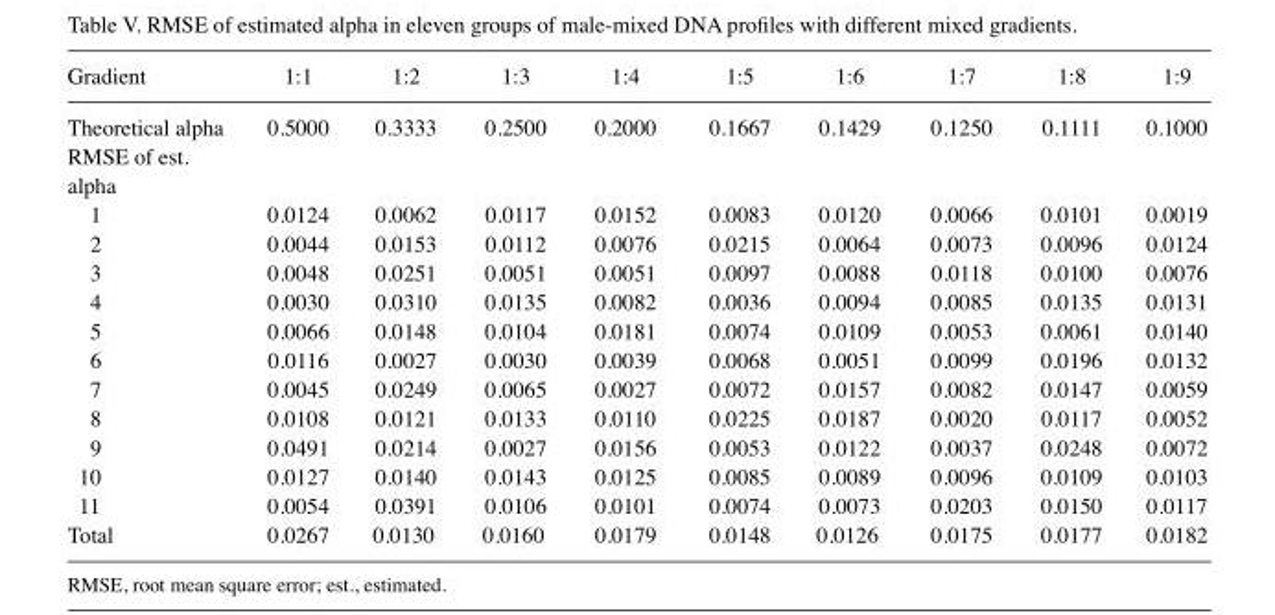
<table><thead><tr><td>Gradient</td><td>1:1</td><td>1:2</td><td>1:3</td><td>1:4</td><td>1:5</td><td>1:6</td><td>1:7</td><td>1:8</td><td>1:9</td></tr></thead><tbody><tr><td>Theoretical alpha</td><td>0.5000</td><td>0.3333</td><td>0.2500</td><td>0.2000</td><td>0.1667</td><td>0.1429</td><td>0.1250</td><td>0.1111</td><td>0.1000</td></tr><tr><td colspan="10">RMSE of est. alpha</td></tr><tr><td>1</td><td>0.0124</td><td>0.0062</td><td>0.0117</td><td>0.0152</td><td>0.0083</td><td>0.0120</td><td>0.0066</td><td>0.0101</td><td>0.0019</td></tr><tr><td>2</td><td>0.0044</td><td>0.0153</td><td>0.0112</td><td>0.0076</td><td>0.0215</td><td>0.0064</td><td>0.0073</td><td>0.0096</td><td>0.0124</td></tr><tr><td>3</td><td>0.0048</td><td>0.0251</td><td>0.0051</td><td>0.0051</td><td>0.0097</td><td>0.0088</td><td>0.0118</td><td>0.0100</td><td>0.0076</td></tr><tr><td>4</td><td>0.0030</td><td>0.0310</td><td>0.0135</td><td>0.0082</td><td>0.0036</td><td>0.0094</td><td>0.0085</td><td>0.0135</td><td>0.0131</td></tr><tr><td>5</td><td>0.0066</td><td>0.0148</td><td>0.0104</td><td>0.0181</td><td>0.0074</td><td>0.0109</td><td>0.0053</td><td>0.0061</td><td>0.0140</td></tr><tr><td>6</td><td>0.0116</td><td>0.0027</td><td>0.0030</td><td>0.0039</td><td>0.0068</td><td>0.0051</td><td>0.0099</td><td>0.0196</td><td>0.0132</td></tr><tr><td>7</td><td>0.0045</td><td>0.0249</td><td>0.0065</td><td>0.0027</td><td>0.0072</td><td>0.0157</td><td>0.0082</td><td>0.0147</td><td>0.0059</td></tr><tr><td>8</td><td>0.0108</td><td>0.0121</td><td>0.0133</td><td>0.0110</td><td>0.0225</td><td>0.0187</td><td>0.0020</td><td>0.0117</td><td>0.0052</td></tr><tr><td>9</td><td>0.0491</td><td>0.0214</td><td>0.0027</td><td>0.0156</td><td>0.0053</td><td>0.0122</td><td>0.0037</td><td>0.0248</td><td>0.0072</td></tr><tr><td>10</td><td>0.0127</td><td>0.0140</td><td>0.0143</td><td>0.0125</td><td>0.0085</td><td>0.0089</td><td>0.0096</td><td>0.0109</td><td>0.0103</td></tr><tr><td>11</td><td>0.0054</td><td>0.0391</td><td>0.0106</td><td>0.0101</td><td>0.0074</td><td>0.0073</td><td>0.0203</td><td>0.0150</td><td>0.0117</td></tr><tr><td>Total</td><td>0.0267</td><td>0.0130</td><td>0.0160</td><td>0.0179</td><td>0.0148</td><td>0.0126</td><td>0.0175</td><td>0.0177</td><td>0.0182</td></tr></tbody></table>